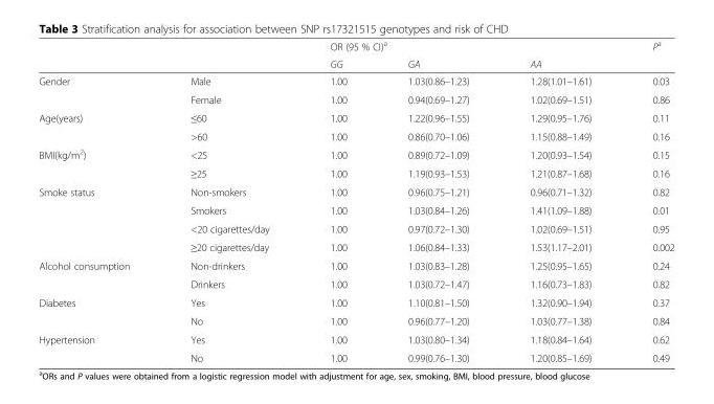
<table><thead><tr><td rowspan="2"></td><td rowspan="2"></td><td colspan="3">OR (95 % CI)<sup>a</sup></td><td rowspan="2">P<sup>a</sup></td></tr><tr><td>GG</td><td>GA</td><td>AA</td></tr></thead><tbody><tr><td rowspan="2">Gender</td><td>Male</td><td>1.00</td><td>1.03(0.86–1.23)</td><td>1.28(1.01–1.61)</td><td>0.03</td></tr><tr><td>Female</td><td>1.00</td><td>0.94(0.69–1.27)</td><td>1.02(0.69–1.51)</td><td>0.86</td></tr><tr><td rowspan="2">Age(years)</td><td>≤60</td><td>1.00</td><td>1.22(0.96–1.55)</td><td>1.29(0.95–1.76)</td><td>0.11</td></tr><tr><td>&gt;60</td><td>1.00</td><td>0.86(0.70–1.06)</td><td>1.15(0.88–1.49)</td><td>0.16</td></tr><tr><td rowspan="2">BMI(kg/m<sup>2</sup>)</td><td>&lt;25</td><td>1.00</td><td>0.89(0.72–1.09)</td><td>1.20(0.93–1.54)</td><td>0.15</td></tr><tr><td>≥25</td><td>1.00</td><td>1.19(0.93–1.53)</td><td>1.21(0.87–1.68)</td><td>0.16</td></tr><tr><td rowspan="4">Smoke status</td><td>Non-smokers</td><td>1.00</td><td>0.96(0.75–1.21)</td><td>0.96(0.71–1.32)</td><td>0.82</td></tr><tr><td>Smokers</td><td>1.00</td><td>1.03(0.84–1.26)</td><td>1.41(1.09–1.88)</td><td>0.01</td></tr><tr><td>&lt;20 cigarettes/day</td><td>1.00</td><td>0.97(0.72–1.30)</td><td>1.02(0.69–1.51)</td><td>0.95</td></tr><tr><td>≥20 cigarettes/day</td><td>1.00</td><td>1.06(0.84–1.33)</td><td>1.53(1.17–2.01)</td><td>0.002</td></tr><tr><td rowspan="2">Alcohol consumption</td><td>Non-drinkers</td><td>1.00</td><td>1.03(0.83–1.28)</td><td>1.25(0.95–1.65)</td><td>0.24</td></tr><tr><td>Drinkers</td><td>1.00</td><td>1.03(0.72–1.47)</td><td>1.16(0.73–1.83)</td><td>0.82</td></tr><tr><td rowspan="2">Diabetes</td><td>Yes</td><td>1.00</td><td>1.10(0.81–1.50)</td><td>1.32(0.90–1.94)</td><td>0.37</td></tr><tr><td>No</td><td>1.00</td><td>0.96(0.77–1.20)</td><td>1.03(0.77–1.38)</td><td>0.84</td></tr><tr><td rowspan="2">Hypertension</td><td>Yes</td><td>1.00</td><td>1.03(0.80–1.34)</td><td>1.18(0.84–1.64)</td><td>0.62</td></tr><tr><td>No</td><td>1.00</td><td>0.99(0.76–1.30)</td><td>1.20(0.85–1.69)</td><td>0.49</td></tr></tbody></table>